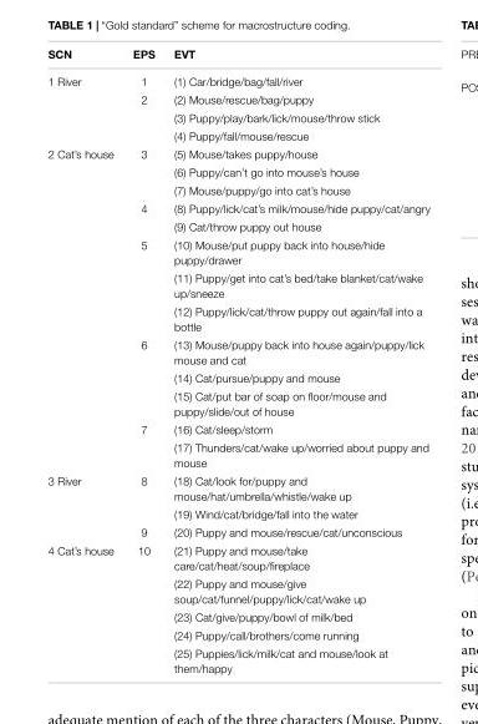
<table><thead><tr><td>SCN</td><td>EPS</td><td>EVT</td></tr></thead><tbody><tr><td rowspan="4">1 River</td><td>1</td><td>(1) Car/bridge/bag/fall/river</td></tr><tr><td>2</td><td>(2) Mouse/rescue/bag/puppy</td></tr><tr><td></td><td>(3) Puppy/play/bark/lick/mouse/throw stick</td></tr><tr><td></td><td>(4) Puppy/fall/mouse/rescue</td></tr><tr><td rowspan="13">2 Cat’s house</td><td>3</td><td>(5) Mouse/takes puppy/house</td></tr><tr><td></td><td>(6) Puppy/can’t go into mouse’s house</td></tr><tr><td></td><td>(7) Mouse/puppy/go into cat’s house</td></tr><tr><td>4</td><td>(8) Puppy/lick/cat’s milk/mouse/hide puppy/cat/angry</td></tr><tr><td></td><td>(9) Cat/throw puppy out house</td></tr><tr><td>5</td><td>(10) Mouse/put puppy back into house/hide puppy/drawer</td></tr><tr><td></td><td>(11) Puppy/get into cat’s bed/take blanket/cat/wake up/sneeze</td></tr><tr><td></td><td>(12) Puppy/lick/cat/throw puppy out again/fall into a bottle</td></tr><tr><td>6</td><td>(13) Mouse/puppy back into house again/puppy/lick mouse and cat</td></tr><tr><td></td><td>(14) Cat/pursue/puppy and mouse</td></tr><tr><td></td><td>(15) Cat/put bar of soap on floor/mouse and puppy/slide/out of house</td></tr><tr><td>7</td><td>(16) Cat/sleep/storm</td></tr><tr><td></td><td>(17) Thunders/cat/wake up/worried about puppy and mouse</td></tr><tr><td rowspan="3">3 River</td><td>8</td><td>(18) Cat/look for/puppy and mouse/hat/umbrella/whistle/wake up</td></tr><tr><td></td><td>(19) Wind/cat/bridge/fall into the water</td></tr><tr><td>9</td><td>(20) Puppy and mouse/rescue/cat/unconscious</td></tr><tr><td rowspan="5">4 Cat’s house</td><td>10</td><td>(21) Puppy and mouse/take care/cat/heat/soup/fireplace</td></tr><tr><td></td><td>(22) Puppy and mouse/give soup/cat/funnel/puppy/lick/cat/wake up</td></tr><tr><td></td><td>(23) Cat/give/puppy/bowl of milk/bed</td></tr><tr><td></td><td>(24) Puppy/call/brothers/come running</td></tr><tr><td></td><td>(25) Puppies/lick/milk/cat and mouse/look at them/happy</td></tr></tbody></table>